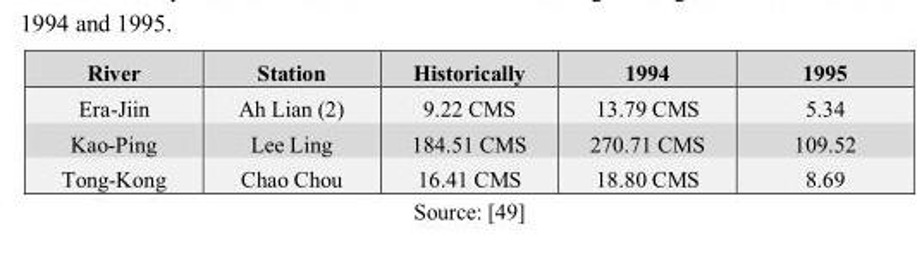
<table><thead><tr><td>River</td><td>Station</td><td>Historically</td><td>1994</td><td>1995</td></tr></thead><tbody><tr><td>Era-Jiin</td><td>Ah Lian (2)</td><td>9.22 CMS</td><td>13.79 CMS</td><td>5.34</td></tr><tr><td>Kao-Ping</td><td>Lee Ling</td><td>184.51 CMS</td><td>270.71 CMS</td><td>109.52</td></tr><tr><td>Tong-Kong</td><td>Chao Chou</td><td>16.41 CMS</td><td>18.80 CMS</td><td>8.69</td></tr></tbody></table>